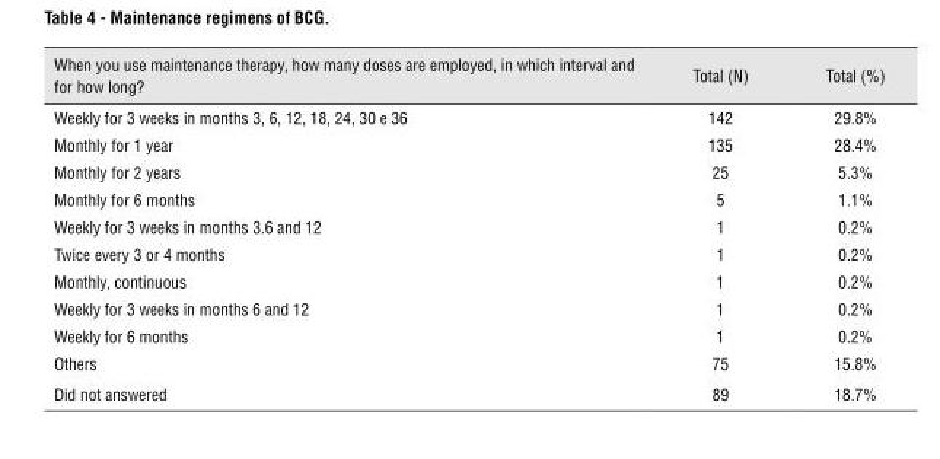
<table><thead><tr><td>When you use maintenance therapy, how many doses are employed, in which interval and for how long?</td><td>Total (N)</td><td>Total (%)</td></tr></thead><tbody><tr><td>Weekly for 3 weeks in months 3, 6, 12, 18, 24, 30 e 36</td><td>142</td><td>29.8%</td></tr><tr><td>Monthly for 1 year</td><td>135</td><td>28.4%</td></tr><tr><td>Monthly for 2 years</td><td>25</td><td>5.3%</td></tr><tr><td>Monthly for 6 months</td><td>5</td><td>1.1%</td></tr><tr><td>Weekly for 3 weeks in months 3.6 and 12</td><td>1</td><td>0.2%</td></tr><tr><td>Twice every 3 or 4 months</td><td>1</td><td>0.2%</td></tr><tr><td>Monthly, continuous</td><td>1</td><td>0.2%</td></tr><tr><td>Weekly for 3 weeks in months 6 and 12</td><td>1</td><td>0.2%</td></tr><tr><td>Weekly for 6 months</td><td>1</td><td>0.2%</td></tr><tr><td>Others</td><td>75</td><td>15.8%</td></tr><tr><td>Did not answered</td><td>89</td><td>18.7%</td></tr></tbody></table>